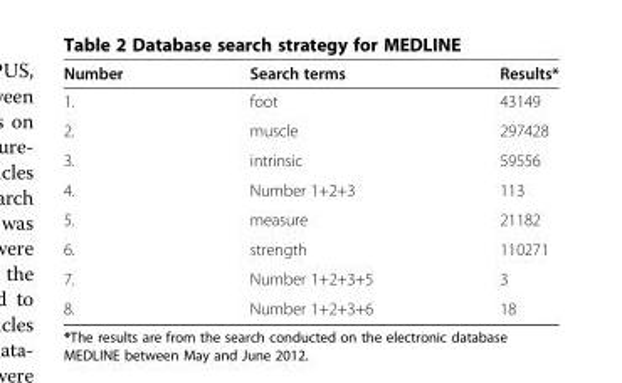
<table><thead><tr><td>Number</td><td>Search terms</td><td>Results*</td></tr></thead><tbody><tr><td>1.</td><td>foot</td><td>43149</td></tr><tr><td>2.</td><td>muscle</td><td>297428</td></tr><tr><td>3.</td><td>intrinsic</td><td>59556</td></tr><tr><td>4.</td><td>Number 1+2+3</td><td>113</td></tr><tr><td>5.</td><td>measure</td><td>21182</td></tr><tr><td>6.</td><td>strength</td><td>110271</td></tr><tr><td>7.</td><td>Number 1+2+3+5</td><td>3</td></tr><tr><td>8.</td><td>Number 1+2+3+6</td><td>18</td></tr></tbody></table>